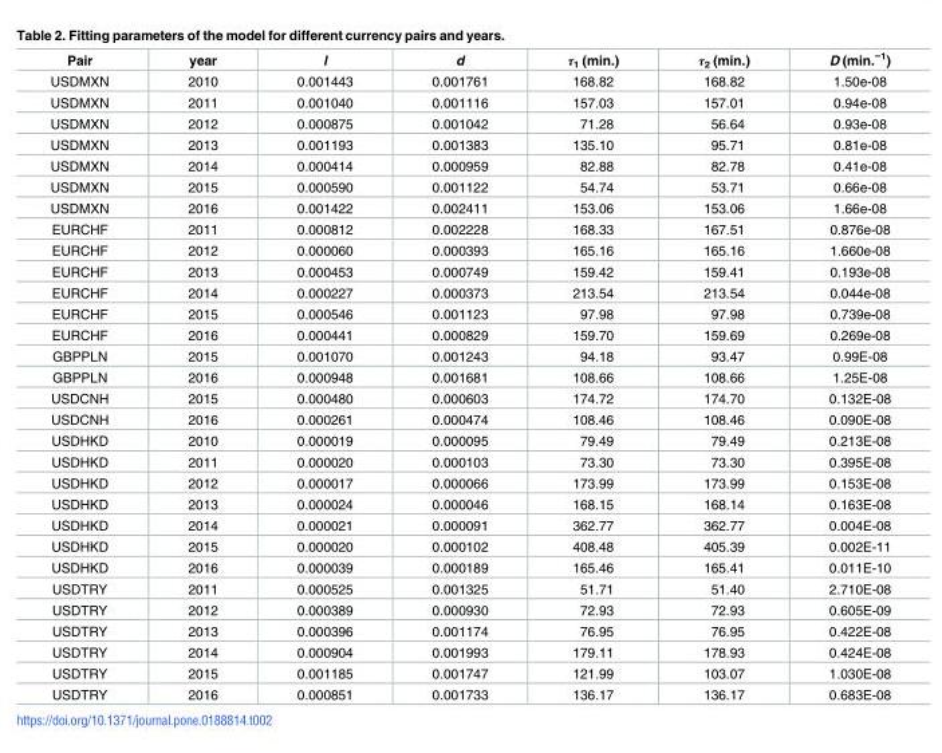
<table><thead><tr><td>Pair</td><td>year</td><td>l</td><td>d</td><td>τ<sub>1</sub> (min.)</td><td>τ<sub>2</sub> (min.)</td><td>D (min.<sup>−1</sup>)</td></tr></thead><tbody><tr><td>USDMXN</td><td>2010</td><td>0.001443</td><td>0.001761</td><td>168.82</td><td>168.82</td><td>1.50e-08</td></tr><tr><td>USDMXN</td><td>2011</td><td>0.001040</td><td>0.001116</td><td>157.03</td><td>157.01</td><td>0.94e-08</td></tr><tr><td>USDMXN</td><td>2012</td><td>0.000875</td><td>0.001042</td><td>71.28</td><td>56.64</td><td>0.93e-08</td></tr><tr><td>USDMXN</td><td>2013</td><td>0.001193</td><td>0.001383</td><td>135.10</td><td>95.71</td><td>0.81e-08</td></tr><tr><td>USDMXN</td><td>2014</td><td>0.000414</td><td>0.000959</td><td>82.88</td><td>82.78</td><td>0.41e-08</td></tr><tr><td>USDMXN</td><td>2015</td><td>0.000590</td><td>0.001122</td><td>54.74</td><td>53.71</td><td>0.66e-08</td></tr><tr><td>USDMXN</td><td>2016</td><td>0.001422</td><td>0.002411</td><td>153.06</td><td>153.06</td><td>1.66e-08</td></tr><tr><td>EURCHF</td><td>2011</td><td>0.000812</td><td>0.002228</td><td>168.33</td><td>167.51</td><td>0.876e-08</td></tr><tr><td>EURCHF</td><td>2012</td><td>0.000060</td><td>0.000393</td><td>165.16</td><td>165.16</td><td>1.660e-08</td></tr><tr><td>EURCHF</td><td>2013</td><td>0.000453</td><td>0.000749</td><td>159.42</td><td>159.41</td><td>0.193e-08</td></tr><tr><td>EURCHF</td><td>2014</td><td>0.000227</td><td>0.000373</td><td>213.54</td><td>213.54</td><td>0.044e-08</td></tr><tr><td>EURCHF</td><td>2015</td><td>0.000546</td><td>0.001123</td><td>97.98</td><td>97.98</td><td>0.739e-08</td></tr><tr><td>EURCHF</td><td>2016</td><td>0.000441</td><td>0.000829</td><td>159.70</td><td>159.69</td><td>0.269e-08</td></tr><tr><td>GBPPLN</td><td>2015</td><td>0.001070</td><td>0.001243</td><td>94.18</td><td>93.47</td><td>0.99E-08</td></tr><tr><td>GBPPLN</td><td>2016</td><td>0.000948</td><td>0.001681</td><td>108.66</td><td>108.66</td><td>1.25E-08</td></tr><tr><td>USDCNH</td><td>2015</td><td>0.000480</td><td>0.000603</td><td>174.72</td><td>174.70</td><td>0.132E-08</td></tr><tr><td>USDCNH</td><td>2016</td><td>0.000261</td><td>0.000474</td><td>108.46</td><td>108.46</td><td>0.090E-08</td></tr><tr><td>USDHKD</td><td>2010</td><td>0.000019</td><td>0.000095</td><td>79.49</td><td>79.49</td><td>0.213E-08</td></tr><tr><td>USDHKD</td><td>2011</td><td>0.000020</td><td>0.000103</td><td>73.30</td><td>73.30</td><td>0.395E-08</td></tr><tr><td>USDHKD</td><td>2012</td><td>0.000017</td><td>0.000066</td><td>173.99</td><td>173.99</td><td>0.153E-08</td></tr><tr><td>USDHKD</td><td>2013</td><td>0.000024</td><td>0.000046</td><td>168.15</td><td>168.14</td><td>0.163E-08</td></tr><tr><td>USDHKD</td><td>2014</td><td>0.000021</td><td>0.000091</td><td>362.77</td><td>362.77</td><td>0.004E-08</td></tr><tr><td>USDHKD</td><td>2015</td><td>0.000020</td><td>0.000102</td><td>408.48</td><td>405.39</td><td>0.002E-11</td></tr><tr><td>USDHKD</td><td>2016</td><td>0.000039</td><td>0.000189</td><td>165.46</td><td>165.41</td><td>0.011E-10</td></tr><tr><td>USDTRY</td><td>2011</td><td>0.000525</td><td>0.001325</td><td>51.71</td><td>51.40</td><td>2.710E-08</td></tr><tr><td>USDTRY</td><td>2012</td><td>0.000389</td><td>0.000930</td><td>72.93</td><td>72.93</td><td>0.605E-09</td></tr><tr><td>USDTRY</td><td>2013</td><td>0.000396</td><td>0.001174</td><td>76.95</td><td>76.95</td><td>0.422E-08</td></tr><tr><td>USDTRY</td><td>2014</td><td>0.000904</td><td>0.001993</td><td>179.11</td><td>178.93</td><td>0.424E-08</td></tr><tr><td>USDTRY</td><td>2015</td><td>0.001185</td><td>0.001747</td><td>121.99</td><td>103.07</td><td>1.030E-08</td></tr><tr><td>USDTRY</td><td>2016</td><td>0.000851</td><td>0.001733</td><td>136.17</td><td>136.17</td><td>0.683E-08</td></tr></tbody></table>